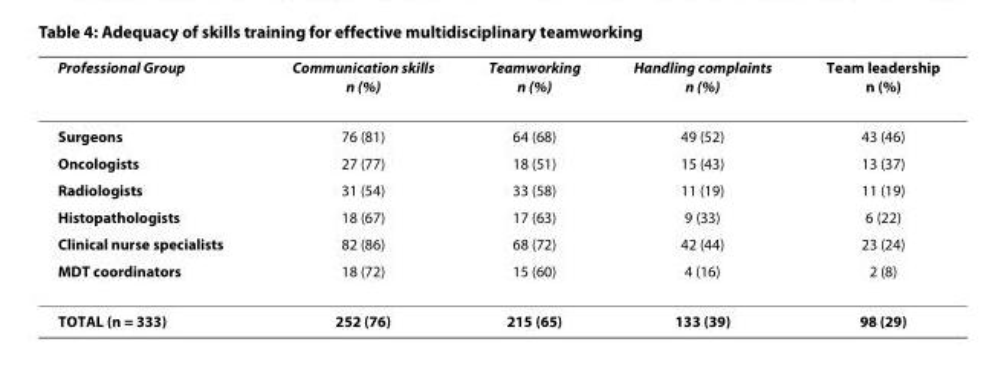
<table><thead><tr><td>Professional Group</td><td>Communication skills n (%)</td><td>Teamworking n (%)</td><td>Handling complaints n (%)</td><td>Team leadership n (%)</td></tr></thead><tbody><tr><td>Surgeons</td><td>76 (81)</td><td>64 (68)</td><td>49 (52)</td><td>43 (46)</td></tr><tr><td>Oncologists</td><td>27 (77)</td><td>18 (51)</td><td>15 (43)</td><td>13 (37)</td></tr><tr><td>Radiologists</td><td>31 (54)</td><td>33 (58)</td><td>11 (19)</td><td>11 (19)</td></tr><tr><td>Histopathologists</td><td>18 (67)</td><td>17 (63)</td><td>9 (33)</td><td>6 (22)</td></tr><tr><td>Clinical nurse specialists</td><td>82 (86)</td><td>68 (72)</td><td>42 (44)</td><td>23 (24)</td></tr><tr><td>MDT coordinators</td><td>18 (72)</td><td>15 (60)</td><td>4 (16)</td><td>2 (8)</td></tr><tr><td>TOTAL (n = 333)</td><td>252 (76)</td><td>215 (65)</td><td>133 (39)</td><td>98 (29)</td></tr></tbody></table>